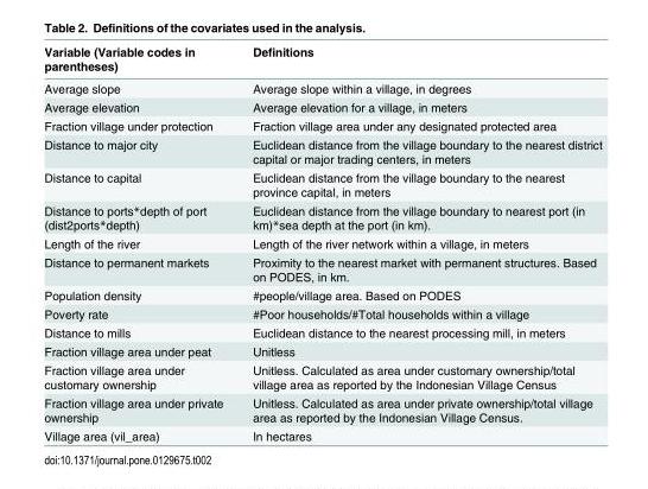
<table><thead><tr><td>Variable (Variable codes in parentheses)</td><td>Definitions</td></tr></thead><tbody><tr><td>Average slope</td><td>Average slope within a village, in degrees</td></tr><tr><td>Average elevation</td><td>Average elevation for a village, in meters</td></tr><tr><td>Fraction village under protection</td><td>Fraction village area under any designated protected area</td></tr><tr><td>Distance to major city</td><td>Euclidean distance from the village boundary to the nearest district capital or major trading centers, in meters</td></tr><tr><td>Distance to capital</td><td>Euclidean distance from the village boundary to the nearest province capital, in meters</td></tr><tr><td>Distance to ports*depth of port (dist2ports*depth)</td><td>Euclidean distance from the village boundary to nearest port (in km)*sea depth at the port (in km).</td></tr><tr><td>Length of the river</td><td>Length of the river network within a village, in meters</td></tr><tr><td>Distance to permanent markets</td><td>Proximity to the nearest market with permanent structures. Based on PODES, in km.</td></tr><tr><td>Population density</td><td>#people/village area. Based on PODES</td></tr><tr><td>Poverty rate</td><td>#Poor households/#Total households within a village</td></tr><tr><td>Distance to mills</td><td>Euclidean distance to the nearest processing mill, in meters</td></tr><tr><td>Fraction village area under peat</td><td>Unitless</td></tr><tr><td>Fraction village area under customary ownership</td><td>Unitless. Calculated as area under customary ownership/total village area as reported by the Indonesian Village Census</td></tr><tr><td>Fraction village area under private ownership</td><td>Unitless. Calculated as area under private ownership/total village area as reported by the Indonesian Village Census.</td></tr><tr><td>Village area (vil_area)</td><td>In hectares</td></tr></tbody></table>